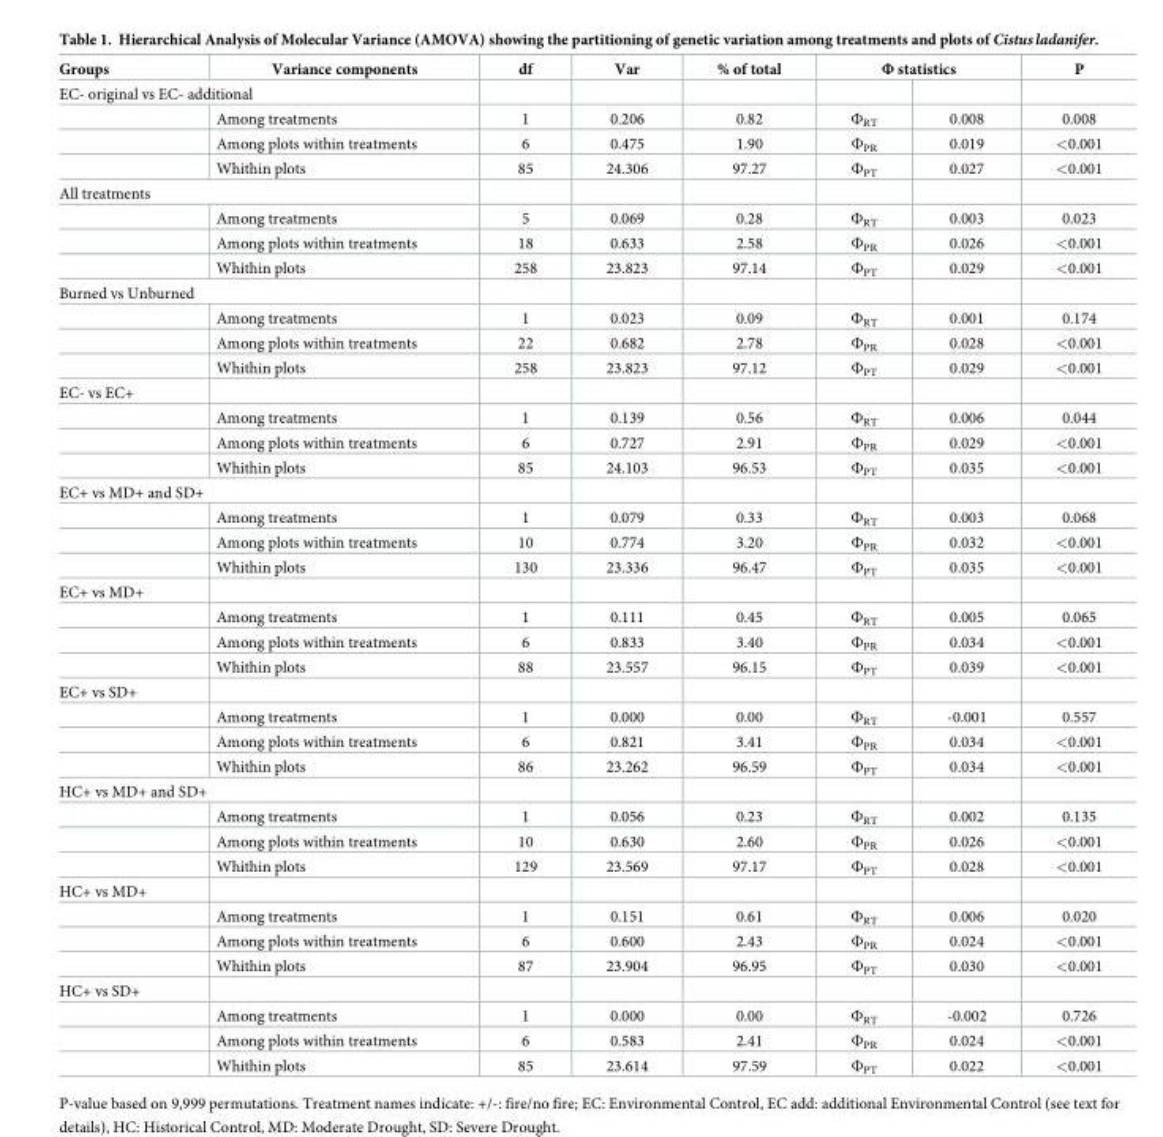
<table><thead><tr><td>Groups</td><td>Variance components</td><td rowspan="2">df</td><td rowspan="2">Var</td><td rowspan="2">% of total</td><td colspan="2">Ф statistics</td><td rowspan="2">P</td></tr><tr><td colspan="2">EC- original vs EC- additional</td><td></td><td></td></tr></thead><tbody><tr><td></td><td>Among treatments</td><td>1</td><td>0.206</td><td>0.82</td><td>Ф<sub>RT</sub></td><td>0.008</td><td>0.008</td></tr><tr><td></td><td>Among plots within treatments</td><td>6</td><td>0.475</td><td>1.90</td><td>Ф<sub>PR</sub></td><td>0.019</td><td>&lt;0.001</td></tr><tr><td></td><td>Whithin plots</td><td>85</td><td>24.306</td><td>97.27</td><td>Ф<sub>PT</sub></td><td>0.027</td><td>&lt;0.001</td></tr><tr><td colspan="8">All treatments</td></tr><tr><td></td><td>Among treatments</td><td>5</td><td>0.069</td><td>0.28</td><td>Ф<sub>RT</sub></td><td>0.003</td><td>0.023</td></tr><tr><td></td><td>Among plots within treatments</td><td>18</td><td>0.633</td><td>2.58</td><td>Ф<sub>PR</sub></td><td>0.026</td><td>&lt;0.001</td></tr><tr><td></td><td>Whithin plots</td><td>258</td><td>23.823</td><td>97.14</td><td>Ф<sub>PT</sub></td><td>0.029</td><td>&lt;0.001</td></tr><tr><td colspan="8">Burned vs Unburned</td></tr><tr><td></td><td>Among treatments</td><td>1</td><td>0.023</td><td>0.09</td><td>Ф<sub>RT</sub></td><td>0.001</td><td>0.174</td></tr><tr><td></td><td>Among plots within treatments</td><td>22</td><td>0.682</td><td>2.78</td><td>Ф<sub>PR</sub></td><td>0.028</td><td>&lt;0.001</td></tr><tr><td></td><td>Whithin plots</td><td>258</td><td>23.823</td><td>97.12</td><td>Ф<sub>PT</sub></td><td>0.029</td><td>&lt;0.001</td></tr><tr><td colspan="8">EC- vs EC+</td></tr><tr><td></td><td>Among treatments</td><td>1</td><td>0.139</td><td>0.56</td><td>Ф<sub>RT</sub></td><td>0.006</td><td>0.044</td></tr><tr><td></td><td>Among plots within treatments</td><td>6</td><td>0.727</td><td>2.91</td><td>Ф<sub>PR</sub></td><td>0.029</td><td>&lt;0.001</td></tr><tr><td></td><td>Whithin plots</td><td>85</td><td>24.103</td><td>96.53</td><td>Ф<sub>PT</sub></td><td>0.035</td><td>&lt;0.001</td></tr><tr><td colspan="8">EC+ vs MD+ and SD+</td></tr><tr><td></td><td>Among treatments</td><td>1</td><td>0.079</td><td>0.33</td><td>Ф<sub>RT</sub></td><td>0.003</td><td>0.068</td></tr><tr><td></td><td>Among plots within treatments</td><td>10</td><td>0.774</td><td>3.20</td><td>Ф<sub>PR</sub></td><td>0.032</td><td>&lt;0.001</td></tr><tr><td></td><td>Whithin plots</td><td>130</td><td>23.336</td><td>96.47</td><td>Ф<sub>PT</sub></td><td>0.035</td><td>&lt;0.001</td></tr><tr><td colspan="8">EC+ vs MD+</td></tr><tr><td></td><td>Among treatments</td><td>1</td><td>0.111</td><td>0.45</td><td>Ф<sub>RT</sub></td><td>0.005</td><td>0.065</td></tr><tr><td></td><td>Among plots within treatments</td><td>6</td><td>0.833</td><td>3.40</td><td>Ф<sub>PR</sub></td><td>0.034</td><td>&lt;0.001</td></tr><tr><td></td><td>Whithin plots</td><td>88</td><td>23.557</td><td>96.15</td><td>Ф<sub>PT</sub></td><td>0.039</td><td>&lt;0.001</td></tr><tr><td colspan="8">EC+ vs SD+</td></tr><tr><td></td><td>Among treatments</td><td>1</td><td>0.000</td><td>0.00</td><td>Ф<sub>RT</sub></td><td>-0.001</td><td>0.557</td></tr><tr><td></td><td>Among plots within treatments</td><td>6</td><td>0.821</td><td>3.41</td><td>Ф<sub>PR</sub></td><td>0.034</td><td>&lt;0.001</td></tr><tr><td></td><td>Whithin plots</td><td>86</td><td>23.262</td><td>96.59</td><td>Ф<sub>PT</sub></td><td>0.034</td><td>&lt;0.001</td></tr><tr><td colspan="8">HC+ vs MD+ and SD+</td></tr><tr><td></td><td>Among treatments</td><td>1</td><td>0.056</td><td>0.23</td><td>Ф<sub>RT</sub></td><td>0.002</td><td>0.135</td></tr><tr><td></td><td>Among plots within treatments</td><td>10</td><td>0.630</td><td>2.60</td><td>Ф<sub>PR</sub></td><td>0.026</td><td>&lt;0.001</td></tr><tr><td></td><td>Whithin plots</td><td>129</td><td>23.569</td><td>97.17</td><td>Ф<sub>PT</sub></td><td>0.028</td><td>&lt;0.001</td></tr><tr><td colspan="8">HC+ vs MD+</td></tr><tr><td></td><td>Among treatments</td><td>1</td><td>0.151</td><td>0.61</td><td>Ф<sub>RT</sub></td><td>0.006</td><td>0.020</td></tr><tr><td></td><td>Among plots within treatments</td><td>6</td><td>0.600</td><td>2.43</td><td>Ф<sub>PR</sub></td><td>0.024</td><td>&lt;0.001</td></tr><tr><td></td><td>Whithin plots</td><td>87</td><td>23.904</td><td>96.95</td><td>Ф<sub>PT</sub></td><td>0.030</td><td>&lt;0.001</td></tr><tr><td colspan="8">HC+ vs SD+</td></tr><tr><td></td><td>Among treatments</td><td>1</td><td>0.000</td><td>0.00</td><td>Ф<sub>RT</sub></td><td>-0.002</td><td>0.726</td></tr><tr><td></td><td>Among plots within treatments</td><td>6</td><td>0.583</td><td>2.41</td><td>Ф<sub>PR</sub></td><td>0.024</td><td>&lt;0.001</td></tr><tr><td></td><td>Whithin plots</td><td>85</td><td>23.614</td><td>97.59</td><td>Ф<sub>PT</sub></td><td>0.022</td><td>&lt;0.001</td></tr></tbody></table>